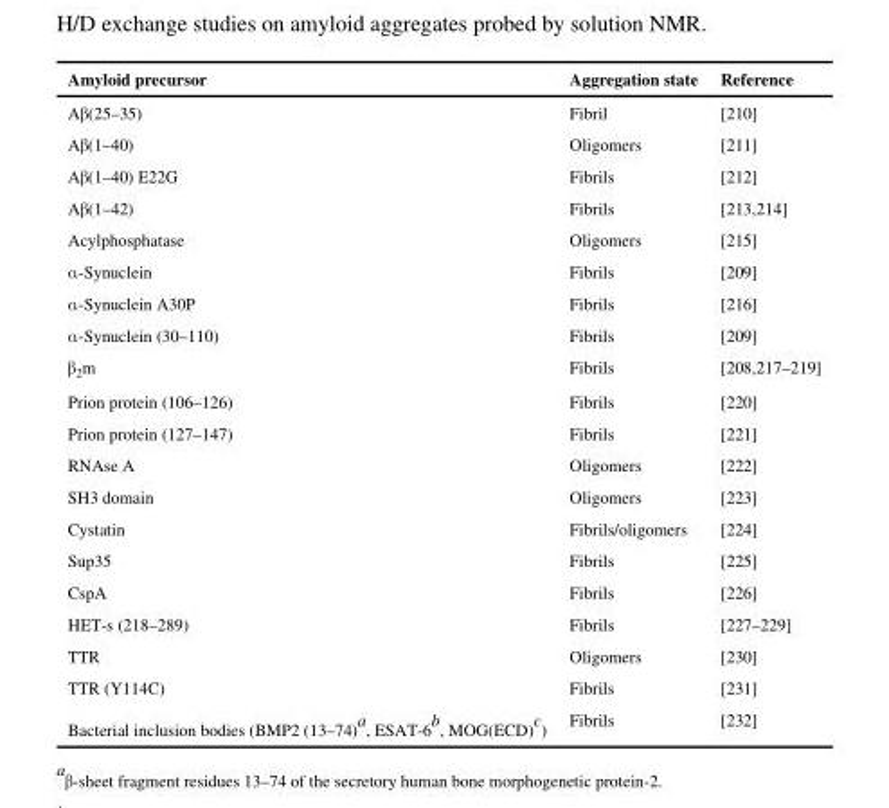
<table><thead><tr><td>Amyloid precursor</td><td>Aggregation state</td><td>Reference</td></tr></thead><tbody><tr><td>Aβ(25–35)</td><td>Fibril</td><td>[210]</td></tr><tr><td>Aβ(1–40)</td><td>Oligomers</td><td>[211]</td></tr><tr><td>Aβ(1–40) E22G</td><td>Fibrils</td><td>[212]</td></tr><tr><td>Aβ(1–42)</td><td>Fibrils</td><td>[213,214]</td></tr><tr><td>Acylphosphatase</td><td>Oligomers</td><td>[215]</td></tr><tr><td>α-Synuclein</td><td>Fibrils</td><td>[209]</td></tr><tr><td>α-Synuclein A30P</td><td>Fibrils</td><td>[216]</td></tr><tr><td>α-Synuclein (30–110)</td><td>Fibrils</td><td>[209]</td></tr><tr><td>β<sub>2</sub>m</td><td>Fibrils</td><td>[208,217–219]</td></tr><tr><td>Prion protein (106–126)</td><td>Fibrils</td><td>[220]</td></tr><tr><td>Prion protein (127–147)</td><td>Fibrils</td><td>[221]</td></tr><tr><td>RNAse A</td><td>Oligomers</td><td>[222]</td></tr><tr><td>SH3 domain</td><td>Oligomers</td><td>[223]</td></tr><tr><td>Cystatin</td><td>Fibrils/oligomers</td><td>[224]</td></tr><tr><td>Sup35</td><td>Fibrils</td><td>[225]</td></tr><tr><td>CspA</td><td>Fibrils</td><td>[226]</td></tr><tr><td>HET-s (218–289)</td><td>Fibrils</td><td>[227–229]</td></tr><tr><td>TTR</td><td>Oligomers</td><td>[230]</td></tr><tr><td>TTR (Y114C)</td><td>Fibrils</td><td>[231]</td></tr><tr><td>Bacterial inclusion bodies (BMP2 (13–74)<sup>a</sup>, ESAT-6<sup>b</sup>, MOG(ECD)<sup>c</sup>)</td><td>Fibrils</td><td>[232]</td></tr></tbody></table>